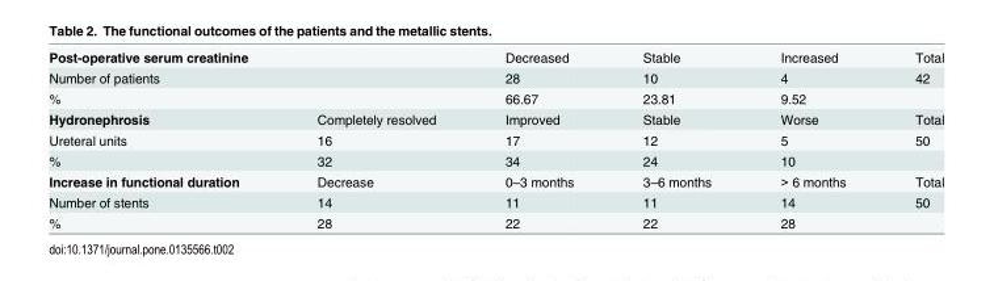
<table><tbody><tr><td>Post-operative serum creatinine</td><td></td><td>Decreased</td><td>Stable</td><td>Increased</td><td>Total</td></tr><tr><td>Number of patients</td><td></td><td>28</td><td>10</td><td>4</td><td>42</td></tr><tr><td>%</td><td></td><td>66.67</td><td>23.81</td><td>9.52</td><td></td></tr><tr><td>Hydronephrosis</td><td>Completely resolved</td><td>Improved</td><td>Stable</td><td>Worse</td><td>Total</td></tr><tr><td>Ureteral units</td><td>16</td><td>17</td><td>12</td><td>5</td><td>50</td></tr><tr><td>%</td><td>32</td><td>34</td><td>24</td><td>10</td><td></td></tr><tr><td>Increase in functional duration</td><td>Decrease</td><td>0–3 months</td><td>3–6 months</td><td>&gt; 6 months</td><td>Total</td></tr><tr><td>Number of stents</td><td>14</td><td>11</td><td>11</td><td>14</td><td>50</td></tr><tr><td>%</td><td>28</td><td>22</td><td>22</td><td>28</td><td></td></tr></tbody></table>